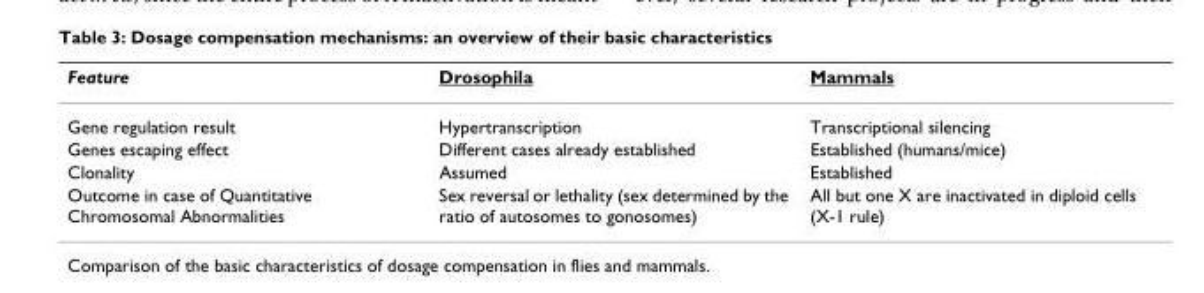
<table><thead><tr><td>Feature</td><td>Drosophila</td><td>Mammals</td></tr></thead><tbody><tr><td>Gene regulation result</td><td>Hypertranscription</td><td>Transcriptional silencing</td></tr><tr><td>Genes escaping effect</td><td>Different cases already established</td><td>Established (humans/mice)</td></tr><tr><td>Clonality</td><td>Assumed</td><td>Established</td></tr><tr><td>Outcome in case of Quantitative Chromosomal Abnormalities</td><td>Sex reversal or lethality (sex determined by the ratio of autosomes to gonosomes)</td><td>All but one X are inactivated in diploid cells (X-1 rule)</td></tr></tbody></table>